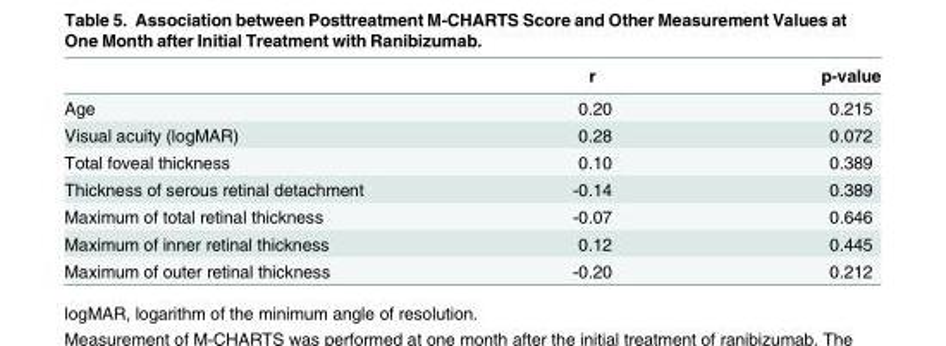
<table><thead><tr><td></td><td>r</td><td>p-value</td></tr></thead><tbody><tr><td>Age</td><td>0.20</td><td>0.215</td></tr><tr><td>Visual acuity (logMAR)</td><td>0.28</td><td>0.072</td></tr><tr><td>Total foveal thickness</td><td>0.10</td><td>0.389</td></tr><tr><td>Thickness of serous retinal detachment</td><td>-0.14</td><td>0.389</td></tr><tr><td>Maximum of total retinal thickness</td><td>-0.07</td><td>0.646</td></tr><tr><td>Maximum of inner retinal thickness</td><td>0.12</td><td>0.445</td></tr><tr><td>Maximum of outer retinal thickness</td><td>-0.20</td><td>0.212</td></tr></tbody></table>